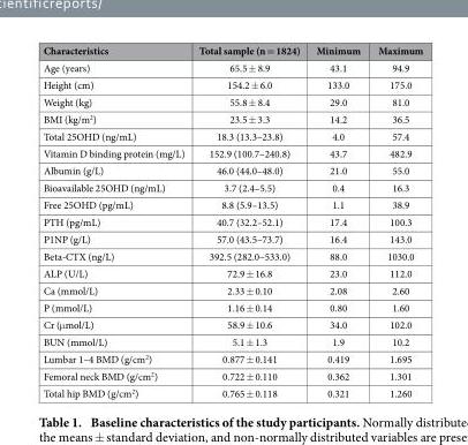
<table><thead><tr><td>Characteristics</td><td>Total sample (n = 1824)</td><td>Minimum</td><td>Maximum</td></tr></thead><tbody><tr><td>Age (years)</td><td>65.5 ± 8.9</td><td>43.1</td><td>94.9</td></tr><tr><td>Height (cm)</td><td>154.2 ± 6.0</td><td>133.0</td><td>175.0</td></tr><tr><td>Weight (kg)</td><td>55.8 ± 8.4</td><td>29.0</td><td>81.0</td></tr><tr><td>BMI (kg/m<sup>2</sup>)</td><td>23.5 ± 3.3</td><td>14.2</td><td>36.5</td></tr><tr><td>Total 25OHD (ng/mL)</td><td>18.3 (13.3–23.8)</td><td>4.0</td><td>57.4</td></tr><tr><td>Vitamin D binding protein (mg/L)</td><td>152.9 (100.7–240.8)</td><td>43.7</td><td>482.9</td></tr><tr><td>Albumin (g/L)</td><td>46.0 (44.0–48.0)</td><td>21.0</td><td>55.0</td></tr><tr><td>Bioavailable 25OHD (ng/mL)</td><td>3.7 (2.4–5.5)</td><td>0.4</td><td>16.3</td></tr><tr><td>Free 25OHD (pg/mL)</td><td>8.8 (5.9–13.5)</td><td>1.1</td><td>38.9</td></tr><tr><td>PTH (pg/mL)</td><td>40.7 (32.2–52.1)</td><td>17.4</td><td>100.3</td></tr><tr><td>P1NP (g/L)</td><td>57.0 (43.5–73.7)</td><td>16.4</td><td>143.0</td></tr><tr><td>Beta-CTX (ng/L)</td><td>392.5 (282.0–533.0)</td><td>88.0</td><td>1030.0</td></tr><tr><td>ALP (U/L)</td><td>72.9 ± 16.8</td><td>23.0</td><td>112.0</td></tr><tr><td>Ca (mmol/L)</td><td>2.33 ± 0.10</td><td>2.08</td><td>2.60</td></tr><tr><td>P (mmol/L)</td><td>1.16 ± 0.14</td><td>0.80</td><td>1.60</td></tr><tr><td>Cr (μ mol/L)</td><td>58.9 ± 10.6</td><td>34.0</td><td>102.0</td></tr><tr><td>BUN (mmol/L)</td><td>5.1 ± 1.3</td><td>1.9</td><td>10.2</td></tr><tr><td>Lumbar 1–4 BMD (g/cm<sup>2</sup>)</td><td>0.877 ± 0.141</td><td>0.419</td><td>1.695</td></tr><tr><td>Femoral neck BMD (g/cm<sup>2</sup>)</td><td>0.722 ± 0.110</td><td>0.362</td><td>1.301</td></tr><tr><td>Total hip BMD (g/cm<sup>2</sup>)</td><td>0.765 ± 0.118</td><td>0.321</td><td>1.260</td></tr></tbody></table>